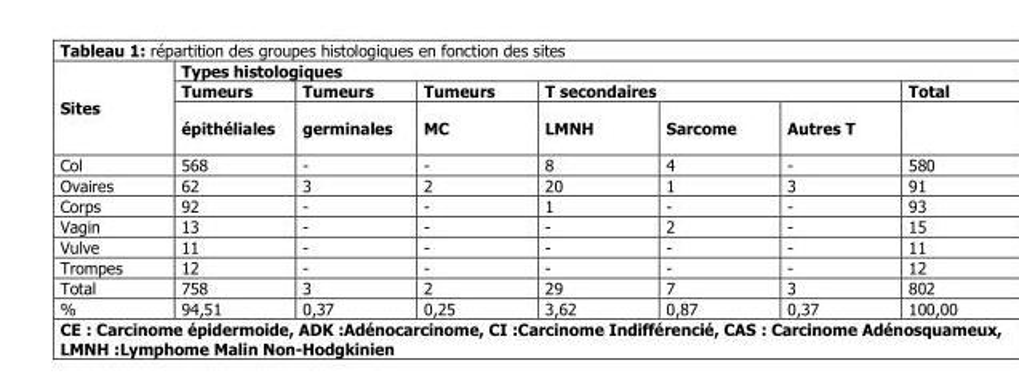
<table><thead><tr><td rowspan="3">Sites</td><td colspan="7">Types histologiques</td></tr><tr><td rowspan="2">Tumeurs épithéliales</td><td rowspan="2">Tumeurs germinales</td><td rowspan="2">Tumeurs MC</td><td colspan="3">T secondaires</td><td rowspan="2">Total</td></tr><tr><td>LMNH</td><td>Sarcome</td><td>Autres T</td></tr></thead><tbody><tr><td>Col</td><td>568</td><td>-</td><td>-</td><td>8</td><td>4</td><td>-</td><td>580</td></tr><tr><td>Ovaires</td><td>62</td><td>3</td><td>2</td><td>20</td><td>1</td><td>3</td><td>91</td></tr><tr><td>Corps</td><td>92</td><td>-</td><td>-</td><td>1</td><td>-</td><td>-</td><td>93</td></tr><tr><td>Vagin</td><td>13</td><td>-</td><td>-</td><td>-</td><td>2</td><td>-</td><td>15</td></tr><tr><td>Vulve</td><td>11</td><td>-</td><td>-</td><td>-</td><td>-</td><td>-</td><td>11</td></tr><tr><td>Trompes</td><td>12</td><td>-</td><td>-</td><td>-</td><td>-</td><td>-</td><td>12</td></tr><tr><td>Total</td><td>758</td><td>3</td><td>2</td><td>29</td><td>7</td><td>3</td><td>802</td></tr><tr><td>%</td><td>94,51</td><td>0,37</td><td>0,25</td><td>3,62</td><td>0,87</td><td>0,37</td><td>100,00</td></tr></tbody></table>